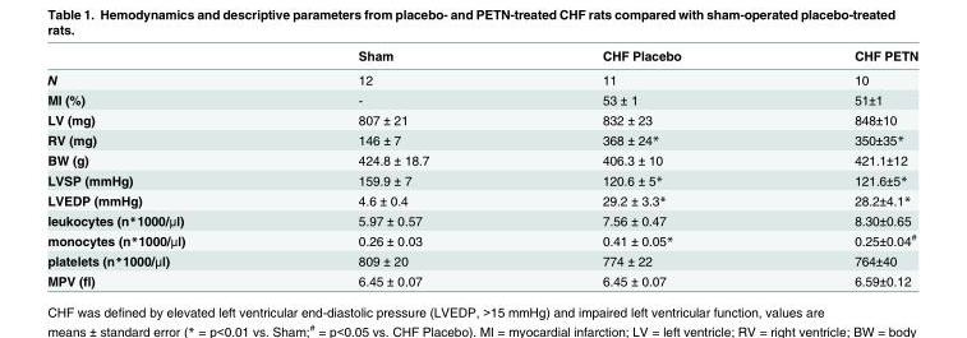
<table><thead><tr><td></td><td>Sham</td><td>CHF Placebo</td><td>CHF PETN</td></tr></thead><tbody><tr><td>N</td><td>12</td><td>11</td><td>10</td></tr><tr><td>MI (%)</td><td>-</td><td>53 ± 1</td><td>51±1</td></tr><tr><td>LV (mg)</td><td>807 ± 21</td><td>832 ± 23</td><td>848±10</td></tr><tr><td>RV (mg)</td><td>146 ± 7</td><td>368 ± 24*</td><td>350±35*</td></tr><tr><td>BW (g)</td><td>424.8 ± 18.7</td><td>406.3 ± 10</td><td>421.1±12</td></tr><tr><td>LVSP (mmHg)</td><td>159.9 ± 7</td><td>120.6 ± 5*</td><td>121.6±5*</td></tr><tr><td>LVEDP (mmHg)</td><td>4.6 ± 0.4</td><td>29.2 ± 3.3*</td><td>28.2±4.1*</td></tr><tr><td>leukocytes (n*1000/μl)</td><td>5.97 ± 0.57</td><td>7.56 ± 0.47</td><td>8.30±0.65</td></tr><tr><td>monocytes (n*1000/μl)</td><td>0.26 ± 0.03</td><td>0.41 ± 0.05*</td><td>0.25±0.04<sup>#</sup></td></tr><tr><td>platelets (n*1000/μl)</td><td>809 ± 20</td><td>774 ± 22</td><td>764±40</td></tr><tr><td>MPV (fl)</td><td>6.45 ± 0.07</td><td>6.45 ± 0.07</td><td>6.59±0.12</td></tr></tbody></table>